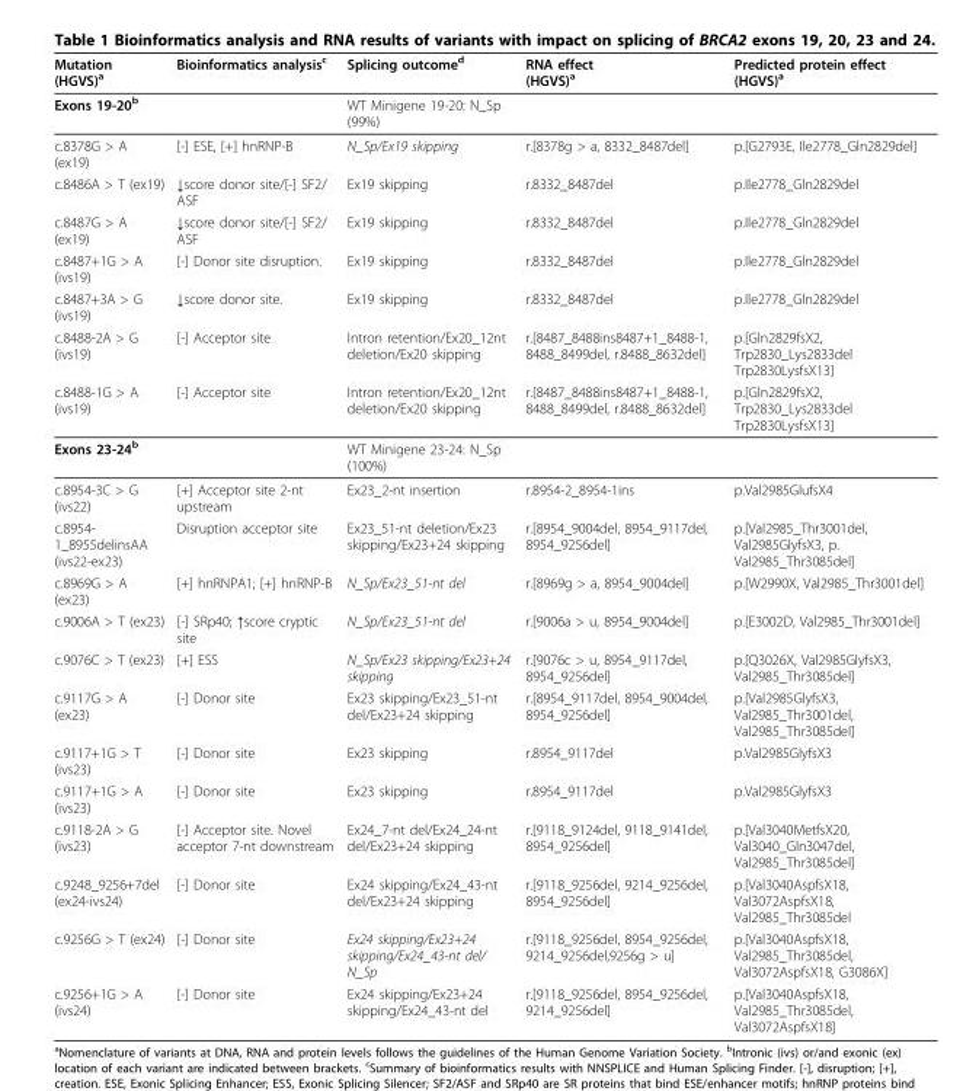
<table><thead><tr><td>Mutation (HGVS)<sup>a</sup></td><td>Bioinformatics analysis<sup>c</sup></td><td>Splicing outcome<sup>d</sup></td><td>RNA effect (HGVS)<sup>a</sup></td><td>Predicted protein effect (HGVS)<sup>a</sup></td></tr></thead><tbody><tr><td>Exons 19-20<sup>b</sup></td><td></td><td>WT Minigene 19-20: N_Sp (99%)</td><td></td><td></td></tr><tr><td>c.8378G &gt; A (ex19)</td><td>[-] ESE, [+] hnRNP-B</td><td>N_Sp/Ex19 skipping</td><td>r.[8378g &gt; a, 8332_8487del]</td><td>p.[G2793E, Ile2778_Gln2829del]</td></tr><tr><td>c.8486A &gt; T (ex19)</td><td>↓score donor site/[-] SF2/ ASF</td><td>Ex19 skipping</td><td>r.8332_8487del</td><td>p.Ile2778_Gln2829del</td></tr><tr><td>c.8487G &gt; A (ex19)</td><td>↓score donor site/[-] SF2/ ASF</td><td>Ex19 skipping</td><td>r.8332_8487del</td><td>p.Ile2778_Gln2829del</td></tr><tr><td>c.8487+1G &gt; A (ivs19)</td><td>[-] Donor site disruption.</td><td>Ex19 skipping</td><td>r.8332_8487del</td><td>p.Ile2778_Gln2829del</td></tr><tr><td>c.8487+3A &gt; G (ivs19)</td><td>↓score donor site.</td><td>Ex19 skipping</td><td>r.8332_8487del</td><td>p.Ile2778_Gln2829del</td></tr><tr><td>c.8488-2A &gt; G (ivs19)</td><td>[-] Acceptor site</td><td>Intron retention/Ex20_12nt deletion/Ex20 skipping</td><td>r.[8487_8488ins8487+1_8488-1, 8488_8499del, r.8488_8632del]</td><td>p.[Gln2829fsX2, Trp2830_Lys2833del Trp2830LysfsX13]</td></tr><tr><td>c.8488-1G &gt; A (ivs19)</td><td>[-] Acceptor site</td><td>Intron retention/Ex20_12nt deletion/Ex20 skipping</td><td>r.[8487_8488ins8487+1_8488-1, 8488_8499del, r.8488_8632del]</td><td>p.[Gln2829fsX2, Trp2830_Lys2833del Trp2830LysfsX13]</td></tr><tr><td>Exons 23-24<sup>b</sup></td><td></td><td>WT Minigene 23-24: N_Sp (100%)</td><td></td><td></td></tr><tr><td>c.8954-3C &gt; G (ivs22)</td><td>[+] Acceptor site 2-nt upstream</td><td>Ex23_2-nt insertion</td><td>r.8954-2_8954-1ins</td><td>p.Val2985GlufsX4</td></tr><tr><td>c.8954- 1_8955delinsAA (ivs22-ex23)</td><td>Disruption acceptor site</td><td>Ex23_51-nt deletion/Ex23 skipping/Ex23+24 skipping</td><td>r.[8954_9004del, 8954_9117del, 8954_9256del]</td><td>p.[Val2985_Thr3001del, Val2985GlyfsX3, p. Val2985_Thr3085del]</td></tr><tr><td>c.8969G &gt; A (ex23)</td><td>[+] hnRNPA1; [+] hnRNP-B</td><td>N_Sp/Ex23_51-nt del</td><td>r.[8969g &gt; a, 8954_9004del]</td><td>p.[W2990X, Val2985_Thr3001del]</td></tr><tr><td>c.9006A &gt; T (ex23)</td><td>[-] SRp40; ↑score cryptic site</td><td>N_Sp/Ex23_51-nt del</td><td>r.[9006a &gt; u, 8954_9004del]</td><td>p.[E3002D, Val2985_Thr3001del]</td></tr><tr><td>c.9076C &gt; T (ex23)</td><td>[+] ESS</td><td>N_Sp/Ex23 skipping/Ex23+24 skipping</td><td>r.[9076c &gt; u, 8954_9117del, 8954_9256del]</td><td>p.[Q3026X, Val2985GlyfsX3, Val2985_Thr3085del]</td></tr><tr><td>c.9117G &gt; A (ex23)</td><td>[-] Donor site</td><td>Ex23 skipping/Ex23_51-nt del/Ex23+24 skipping</td><td>r.[8954_9117del, 8954_9004del, 8954_9256del]</td><td>p.[Val2985GlyfsX3, Val2985_Thr3001del, Val2985_Thr3085del]</td></tr><tr><td>c.9117+1G &gt; T (ivs23)</td><td>[-] Donor site</td><td>Ex23 skipping</td><td>r.8954_9117del</td><td>p.Val2985GlyfsX3</td></tr><tr><td>c.9117+1G &gt; A (ivs23)</td><td>[-] Donor site</td><td>Ex23 skipping</td><td>r.8954_9117del</td><td>p.Val2985GlyfsX3</td></tr><tr><td>c.9118-2A &gt; G (ivs23)</td><td>[-] Acceptor site. Novel acceptor 7-nt downstream</td><td>Ex24_7-nt del/Ex24_24-nt del/Ex23+24 skipping</td><td>r.[9118_9124del, 9118_9141del, 8954_9256del]</td><td>p.[Val3040MetfsX20, Val3040_Gln3047del, Val2985_Thr3085del]</td></tr><tr><td>c.9248_9256+7del (ex24-ivs24)</td><td>[-] Donor site</td><td>Ex24 skipping/Ex24_43-nt del/Ex23+24 skipping</td><td>r.[9118_9256del, 9214_9256del, 8954_9256del]</td><td>p.[Val3040AspfsX18, Val3072AspfsX18, Val2985_Thr3085del</td></tr><tr><td>c.9256G &gt; T (ex24)</td><td>[-] Donor site</td><td>Ex24 skipping/Ex23+24 skipping/Ex24_43-nt del/ N_Sp</td><td>r.[9118_9256del, 8954_9256del, 9214_9256del,9256g &gt; u]</td><td>p.[Val3040AspfsX18, Val2985_Thr3085del, Val3072AspfsX18, G3086X]</td></tr><tr><td>c.9256+1G &gt; A (ivs24)</td><td>[-] Donor site</td><td>Ex24 skipping/Ex23+24 skipping/Ex24_43-nt del</td><td>r.[9118_9256del, 8954_9256del, 9214_9256del]</td><td>p.[Val3040AspfsX18, Val2985_Thr3085del, Val3072AspfsX18]</td></tr></tbody></table>